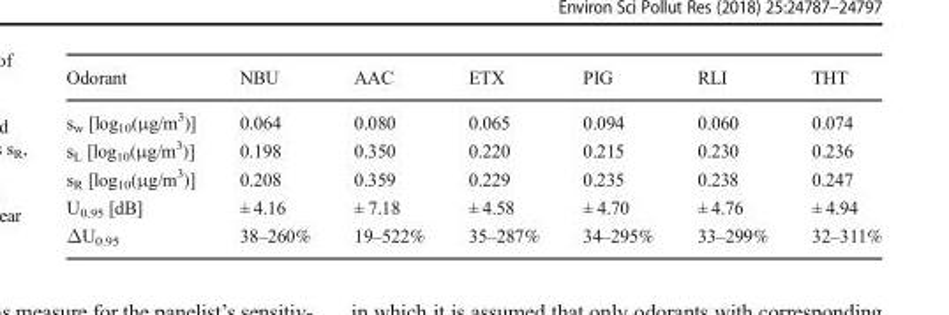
<table><thead><tr><td>Odorant</td><td>NBU</td><td>AAC</td><td>ETX</td><td>PIG</td><td>RLI</td><td>THT</td></tr></thead><tbody><tr><td>s<sub>w</sub> [log<sub>10</sub>(μg/m<sup>3</sup>)]</td><td>0.064</td><td>0.080</td><td>0.065</td><td>0.094</td><td>0.060</td><td>0.074</td></tr><tr><td>s<sub>L</sub> [log<sub>10</sub>(μg/m<sup>3</sup>)]</td><td>0.198</td><td>0.350</td><td>0.220</td><td>0.215</td><td>0.230</td><td>0.236</td></tr><tr><td>s<sub>R</sub> [log<sub>10</sub>(μg/m<sup>3</sup>)]</td><td>0.208</td><td>0.359</td><td>0.229</td><td>0.235</td><td>0.238</td><td>0.247</td></tr><tr><td>U<sub>0.95</sub> [dB]</td><td>± 4.16</td><td>± 7.18</td><td>± 4.58</td><td>± 4.70</td><td>± 4.76</td><td>± 4.94</td></tr><tr><td>ΔU<sub>0.95</sub></td><td>38–260%</td><td>19–522%</td><td>35–287%</td><td>34–295%</td><td>33–299%</td><td>32–311%</td></tr></tbody></table>